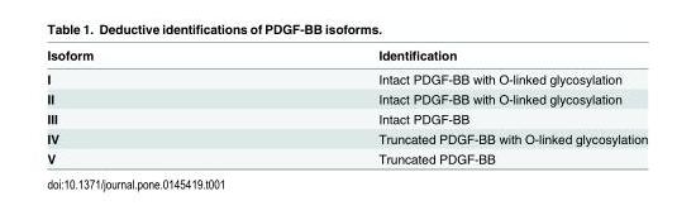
<table><thead><tr><td>Isoform</td><td>Identification</td></tr></thead><tbody><tr><td>I</td><td>Intact PDGF-BB with O-linked glycosylation</td></tr><tr><td>II</td><td>Intact PDGF-BB with O-linked glycosylation</td></tr><tr><td>III</td><td>Intact PDGF-BB</td></tr><tr><td>IV</td><td>Truncated PDGF-BB with O-linked glycosylation</td></tr><tr><td>V</td><td>Truncated PDGF-BB</td></tr></tbody></table>